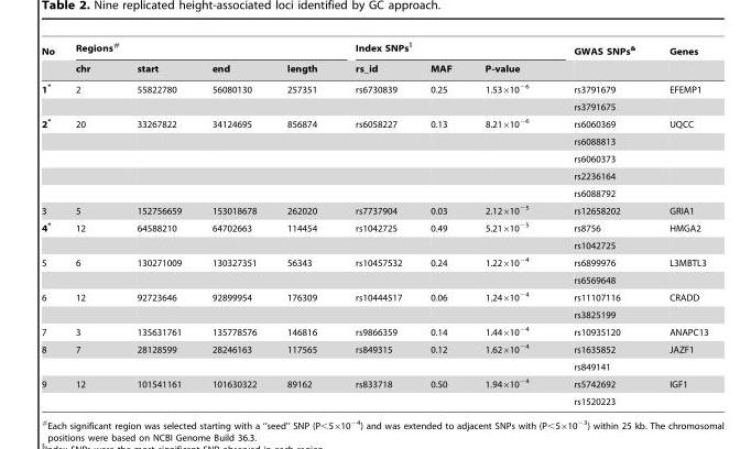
<table><thead><tr><td rowspan="2">No</td><td colspan="4">Regions#</td><td colspan="3">Index SNPs$</td><td rowspan="2">GWAS SNPs&amp;</td><td rowspan="2">Genes</td></tr><tr><td>chr</td><td>start</td><td>end</td><td>length</td><td>rs_id</td><td>MAF</td><td>P-value</td></tr></thead><tbody><tr><td rowspan="2">1*</td><td>2</td><td>55822780</td><td>56080130</td><td>257351</td><td>rs6730839</td><td>0.25</td><td>1.53×10<sup>−6</sup></td><td>rs3791679</td><td>EFEMP1</td></tr><tr><td></td><td></td><td></td><td></td><td></td><td></td><td></td><td>rs3791675</td><td></td></tr><tr><td rowspan="5">2*</td><td>20</td><td>33267822</td><td>34124695</td><td>856874</td><td>rs6058227</td><td>0.13</td><td>8.21×10<sup>−6</sup></td><td>rs6060369</td><td>UQCC</td></tr><tr><td></td><td></td><td></td><td></td><td></td><td></td><td></td><td>rs6088813</td><td></td></tr><tr><td></td><td></td><td></td><td></td><td></td><td></td><td></td><td>rs6060373</td><td></td></tr><tr><td></td><td></td><td></td><td></td><td></td><td></td><td></td><td>rs2236164</td><td></td></tr><tr><td></td><td></td><td></td><td></td><td></td><td></td><td></td><td>rs6088792</td><td></td></tr><tr><td>3</td><td>5</td><td>152756659</td><td>153018678</td><td>262020</td><td>rs7737904</td><td>0.03</td><td>2.12×10<sup>−5</sup></td><td>rs12658202</td><td>GRIA1</td></tr><tr><td rowspan="2">4*</td><td>12</td><td>64588210</td><td>64702663</td><td>114454</td><td>rs1042725</td><td>0.49</td><td>5.21×10<sup>−5</sup></td><td>rs8756</td><td>HMGA2</td></tr><tr><td></td><td></td><td></td><td></td><td></td><td></td><td></td><td>rs1042725</td><td></td></tr><tr><td rowspan="2">5</td><td>6</td><td>130271009</td><td>130327351</td><td>56343</td><td>rs10457532</td><td>0.24</td><td>1.22×10<sup>−4</sup></td><td>rs6899976</td><td>L3MBTL3</td></tr><tr><td></td><td></td><td></td><td></td><td></td><td></td><td></td><td>rs6569648</td><td></td></tr><tr><td rowspan="2">6</td><td>12</td><td>92723646</td><td>92899954</td><td>176309</td><td>rs10444517</td><td>0.06</td><td>1.24×10<sup>−4</sup></td><td>rs11107116</td><td>CRADD</td></tr><tr><td></td><td></td><td></td><td></td><td></td><td></td><td></td><td>rs3825199</td><td></td></tr><tr><td>7</td><td>3</td><td>135631761</td><td>135778576</td><td>146816</td><td>rs9866359</td><td>0.14</td><td>1.44×10<sup>−4</sup></td><td>rs10935120</td><td>ANAPC13</td></tr><tr><td rowspan="2">8</td><td>7</td><td>28128599</td><td>28246163</td><td>117565</td><td>rs849315</td><td>0.12</td><td>1.62×10<sup>−4</sup></td><td>rs1635852</td><td>JAZF1</td></tr><tr><td></td><td></td><td></td><td></td><td></td><td></td><td></td><td>rs849141</td><td></td></tr><tr><td rowspan="2">9</td><td>12</td><td>101541161</td><td>101630322</td><td>89162</td><td>rs833718</td><td>0.50</td><td>1.94×10<sup>−4</sup></td><td>rs5742692</td><td>IGF1</td></tr><tr><td></td><td></td><td></td><td></td><td></td><td></td><td></td><td>rs1520223</td><td></td></tr></tbody></table>